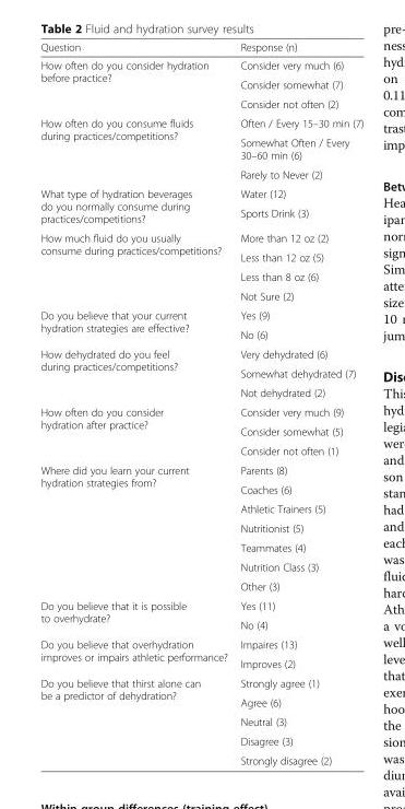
<table><thead><tr><td>Question</td><td>Response (n)</td></tr></thead><tbody><tr><td rowspan="3">How often do you consider hydration before practice?</td><td>Consider very much (6)</td></tr><tr><td>Consider somewhat (7)</td></tr><tr><td>Consider not often (2)</td></tr><tr><td rowspan="3">How often do you consume fluids during practices/competitions?</td><td>Often / Every 15–30 min (7)</td></tr><tr><td>Somewhat Often / Every 30–60 min (6)</td></tr><tr><td>Rarely to Never (2)</td></tr><tr><td rowspan="2">What type of hydration beverages do you normally consume during practices/competitions?</td><td>Water (12)</td></tr><tr><td>Sports Drink (3)</td></tr><tr><td rowspan="4">How much fluid do you usually consume during practices/competitions?</td><td>More than 12 oz (2)</td></tr><tr><td>Less than 12 oz (5)</td></tr><tr><td>Less than 8 oz (6)</td></tr><tr><td>Not Sure (2)</td></tr><tr><td rowspan="2">Do you believe that your current hydration strategies are effective?</td><td>Yes (9)</td></tr><tr><td>No (6)</td></tr><tr><td rowspan="3">How dehydrated do you feel during practices/competitions?</td><td>Very dehydrated (6)</td></tr><tr><td>Somewhat dehydrated (7)</td></tr><tr><td>Not dehydrated (2)</td></tr><tr><td rowspan="3">How often do you consider hydration after practice?</td><td>Consider very much (9)</td></tr><tr><td>Consider somewhat (5)</td></tr><tr><td>Consider not often (1)</td></tr><tr><td rowspan="7">Where did you learn your current hydration strategies from?</td><td>Parents (8)</td></tr><tr><td>Coaches (6)</td></tr><tr><td>Athletic Trainers (5)</td></tr><tr><td>Nutritionist (5)</td></tr><tr><td>Teammates (4)</td></tr><tr><td>Nutrition Class (3)</td></tr><tr><td>Other (3)</td></tr><tr><td rowspan="2">Do you believe that it is possible to overhydrate?</td><td>Yes (11)</td></tr><tr><td>No (4)</td></tr><tr><td rowspan="2">Do you believe that overhydration improves or impairs athletic performance?</td><td>Impaires (13)</td></tr><tr><td>Improves (2)</td></tr><tr><td rowspan="5">Do you believe that thirst alone can be a predictor of dehydration?</td><td>Strongly agree (1)</td></tr><tr><td>Agree (6)</td></tr><tr><td>Neutral (3)</td></tr><tr><td>Disagree (3)</td></tr><tr><td>Strongly disagree (2)</td></tr></tbody></table>